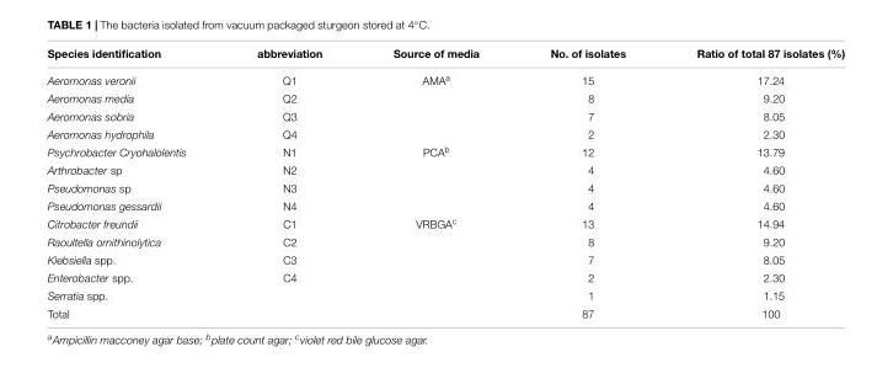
<table><thead><tr><td>Species identification</td><td>abbreviation</td><td>Source of media</td><td>No. of isolates</td><td>Ratio of total 87 isolates (%)</td></tr></thead><tbody><tr><td>Aeromonas veronii</td><td>Q1</td><td>AMA<sup>a</sup></td><td>15</td><td>17.24</td></tr><tr><td>Aeromonas media</td><td>Q2</td><td></td><td>8</td><td>9.20</td></tr><tr><td>Aeromonas sobria</td><td>Q3</td><td></td><td>7</td><td>8.05</td></tr><tr><td>Aeromonas hydrophila</td><td>Q4</td><td></td><td>2</td><td>2.30</td></tr><tr><td>Psychrobacter Cryohalolentis</td><td>N1</td><td>PCA<sup>b</sup></td><td>12</td><td>13.79</td></tr><tr><td>Arthrobacter sp</td><td>N2</td><td></td><td>4</td><td>4.60</td></tr><tr><td>Pseudomonas sp</td><td>N3</td><td></td><td>4</td><td>4.60</td></tr><tr><td>Pseudomonas gessardii</td><td>N4</td><td></td><td>4</td><td>4.60</td></tr><tr><td>Citrobacter freundii</td><td>C1</td><td>VRBGA<sup>c</sup></td><td>13</td><td>14.94</td></tr><tr><td>Raoultella ornithinolytica</td><td>C2</td><td></td><td>8</td><td>9.20</td></tr><tr><td>Klebsiella spp.</td><td>C3</td><td></td><td>7</td><td>8.05</td></tr><tr><td>Enterobacter spp.</td><td>C4</td><td></td><td>2</td><td>2.30</td></tr><tr><td>Serratia spp.</td><td></td><td></td><td>1</td><td>1.15</td></tr><tr><td>Total</td><td></td><td></td><td>87</td><td>100</td></tr></tbody></table>